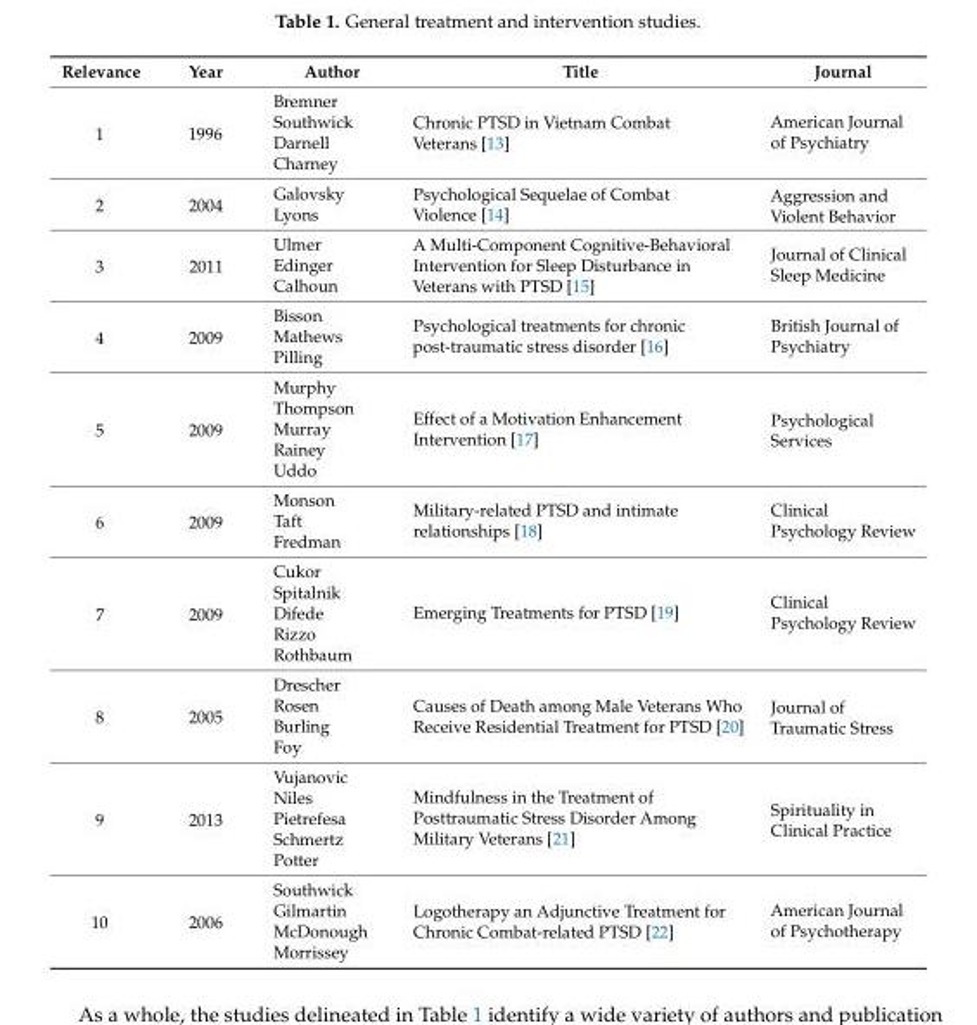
<table><thead><tr><td>Relevance</td><td>Year</td><td>Author</td><td>Title</td><td>Journal</td></tr></thead><tbody><tr><td rowspan="4">1</td><td rowspan="4">1996</td><td>Bremner</td><td rowspan="4">Chronic PTSD in Vietnam Combat Veterans [13]</td><td rowspan="4">American Journal of Psychiatry</td></tr><tr><td>Southwick</td></tr><tr><td>Darnell</td></tr><tr><td>Charney</td></tr><tr><td rowspan="2">2</td><td rowspan="2">2004</td><td>Galovsky</td><td rowspan="2">Psychological Sequelae of Combat Violence [14]</td><td rowspan="2">Aggression and Violent Behavior</td></tr><tr><td>Lyons</td></tr><tr><td rowspan="3">3</td><td rowspan="3">2011</td><td>Ulmer</td><td rowspan="3">A Multi-Component Cognitive-Behavioral Intervention for Sleep Disturbance in Veterans with PTSD [15]</td><td rowspan="3">Journal of Clinical Sleep Medicine</td></tr><tr><td>Edinger</td></tr><tr><td>Calhoun</td></tr><tr><td rowspan="3">4</td><td rowspan="3">2009</td><td>Bisson</td><td rowspan="3">Psychological treatments for chronic post-traumatic stress disorder [16]</td><td rowspan="3">British Journal of Psychiatry</td></tr><tr><td>Mathews</td></tr><tr><td>Pilling</td></tr><tr><td rowspan="5">5</td><td rowspan="5">2009</td><td>Murphy</td><td rowspan="5">Effect of a Motivation Enhancement Intervention [17]</td><td rowspan="5">Psychological Services</td></tr><tr><td>Thompson</td></tr><tr><td>Murray</td></tr><tr><td>Rainey</td></tr><tr><td>Uddo</td></tr><tr><td rowspan="3">6</td><td rowspan="3">2009</td><td>Monson</td><td rowspan="3">Military-related PTSD and intimate relationships [18]</td><td rowspan="3">Clinical Psychology Review</td></tr><tr><td>Taft</td></tr><tr><td>Fredman</td></tr><tr><td rowspan="5">7</td><td rowspan="5">2009</td><td>Cukor</td><td rowspan="5">Emerging Treatments for PTSD [19]</td><td rowspan="5">Clinical Psychology Review</td></tr><tr><td>Spitalnik</td></tr><tr><td>Difede</td></tr><tr><td>Rizzo</td></tr><tr><td>Rothbaum</td></tr><tr><td rowspan="4">8</td><td rowspan="4">2005</td><td>Drescher</td><td rowspan="4">Causes of Death among Male Veterans Who Receive Residential Treatment for PTSD [20]</td><td rowspan="4">Journal of Traumatic Stress</td></tr><tr><td>Rosen</td></tr><tr><td>Burling</td></tr><tr><td>Foy</td></tr><tr><td rowspan="5">9</td><td rowspan="5">2013</td><td>Vujanovic</td><td rowspan="5">Mindfulness in the Treatment of Posttraumatic Stress Disorder Among Military Veterans [21]</td><td rowspan="5">Spirituality in Clinical Practice</td></tr><tr><td>Niles</td></tr><tr><td>Pietrefesa</td></tr><tr><td>Schmertz</td></tr><tr><td>Potter</td></tr><tr><td rowspan="4">10</td><td rowspan="4">2006</td><td>Southwick</td><td rowspan="4">Logotherapy an Adjunctive Treatment for Chronic Combat-related PTSD [22]</td><td rowspan="4">American Journal of Psychotherapy</td></tr><tr><td>Gilmartin</td></tr><tr><td>McDonough</td></tr><tr><td>Morrissey</td></tr></tbody></table>